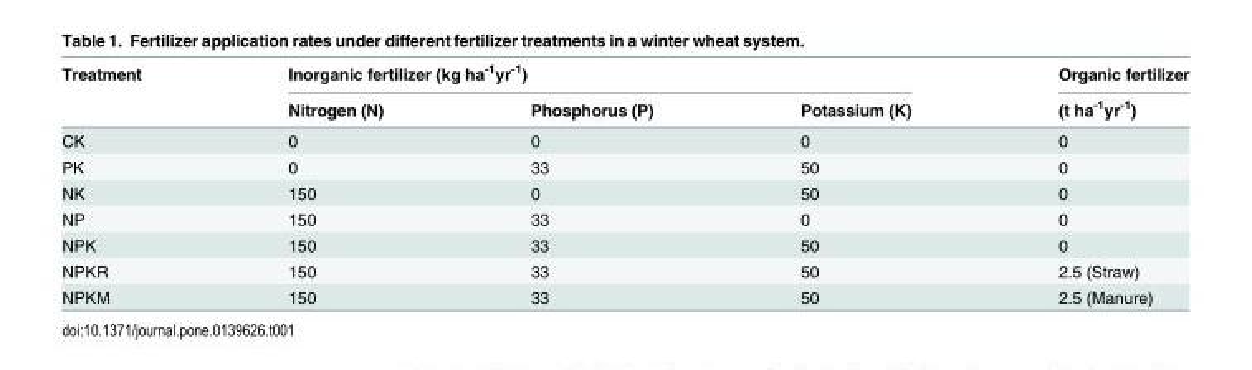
<table><thead><tr><td rowspan="2">Treatment</td><td colspan="3">Inorganic fertilizer (kg ha<sup>-1</sup>yr<sup>-1</sup>)</td><td rowspan="2">Organic fertilizer (t ha<sup>-1</sup>yr<sup>-1</sup>)</td></tr><tr><td>Nitrogen (N)</td><td>Phosphorus (P)</td><td>Potassium (K)</td></tr></thead><tbody><tr><td>CK</td><td>0</td><td>0</td><td>0</td><td>0</td></tr><tr><td>PK</td><td>0</td><td>33</td><td>50</td><td>0</td></tr><tr><td>NK</td><td>150</td><td>0</td><td>50</td><td>0</td></tr><tr><td>NP</td><td>150</td><td>33</td><td>0</td><td>0</td></tr><tr><td>NPK</td><td>150</td><td>33</td><td>50</td><td>0</td></tr><tr><td>NPKR</td><td>150</td><td>33</td><td>50</td><td>2.5 (Straw)</td></tr><tr><td>NPKM</td><td>150</td><td>33</td><td>50</td><td>2.5 (Manure)</td></tr></tbody></table>